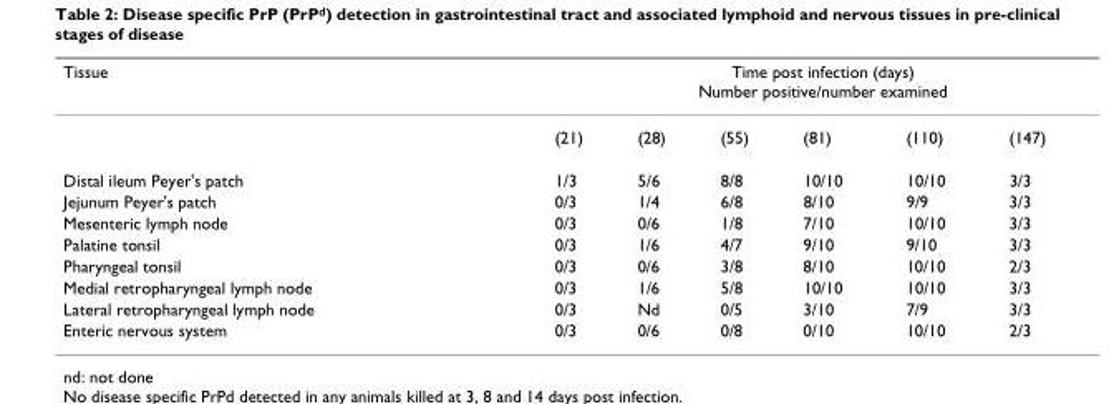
<table><thead><tr><td rowspan="2">Tissue</td><td colspan="6">Time post infection (days) Number positive/number examined</td></tr><tr><td>(21)</td><td>(28)</td><td>(55)</td><td>(81)</td><td>(110)</td><td>(147)</td></tr></thead><tbody><tr><td>Distal ileum Peyer&#x27;s patch</td><td>1/3</td><td>5/6</td><td>8/8</td><td>10/10</td><td>10/10</td><td>3/3</td></tr><tr><td>Jejunum Peyer&#x27;s patch</td><td>0/3</td><td>1/4</td><td>6/8</td><td>8/10</td><td>9/9</td><td>3/3</td></tr><tr><td>Mesenteric lymph node</td><td>0/3</td><td>0/6</td><td>1/8</td><td>7/10</td><td>10/10</td><td>3/3</td></tr><tr><td>Palatine tonsil</td><td>0/3</td><td>1/6</td><td>4/7</td><td>9/10</td><td>9/10</td><td>3/3</td></tr><tr><td>Pharyngeal tonsil</td><td>0/3</td><td>0/6</td><td>3/8</td><td>8/10</td><td>10/10</td><td>2/3</td></tr><tr><td>Medial retropharyngeal lymph node</td><td>0/3</td><td>1/6</td><td>5/8</td><td>10/10</td><td>10/10</td><td>3/3</td></tr><tr><td>Lateral retropharyngeal lymph node</td><td>0/3</td><td>Nd</td><td>0/5</td><td>3/10</td><td>7/9</td><td>3/3</td></tr><tr><td>Enteric nervous system</td><td>0/3</td><td>0/6</td><td>0/8</td><td>0/10</td><td>10/10</td><td>2/3</td></tr></tbody></table>